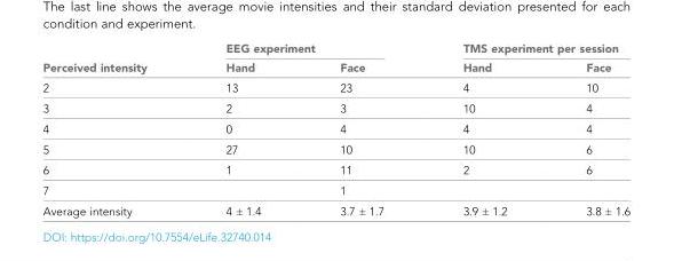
<table><thead><tr><td rowspan="2">Perceived intensity</td><td colspan="2">EEG experiment</td><td colspan="2">TMS experiment per session</td></tr><tr><td>Hand</td><td>Face</td><td>Hand</td><td>Face</td></tr></thead><tbody><tr><td>2</td><td>13</td><td>23</td><td>4</td><td>10</td></tr><tr><td>3</td><td>2</td><td>3</td><td>10</td><td>4</td></tr><tr><td>4</td><td>0</td><td>4</td><td>4</td><td>4</td></tr><tr><td>5</td><td>27</td><td>10</td><td>10</td><td>6</td></tr><tr><td>6</td><td>1</td><td>11</td><td>2</td><td>6</td></tr><tr><td>7</td><td></td><td>1</td><td></td><td></td></tr><tr><td>Average intensity</td><td>4 ± 1.4</td><td>3.7 ± 1.7</td><td>3.9 ± 1.2</td><td>3.8 ± 1.6</td></tr></tbody></table>